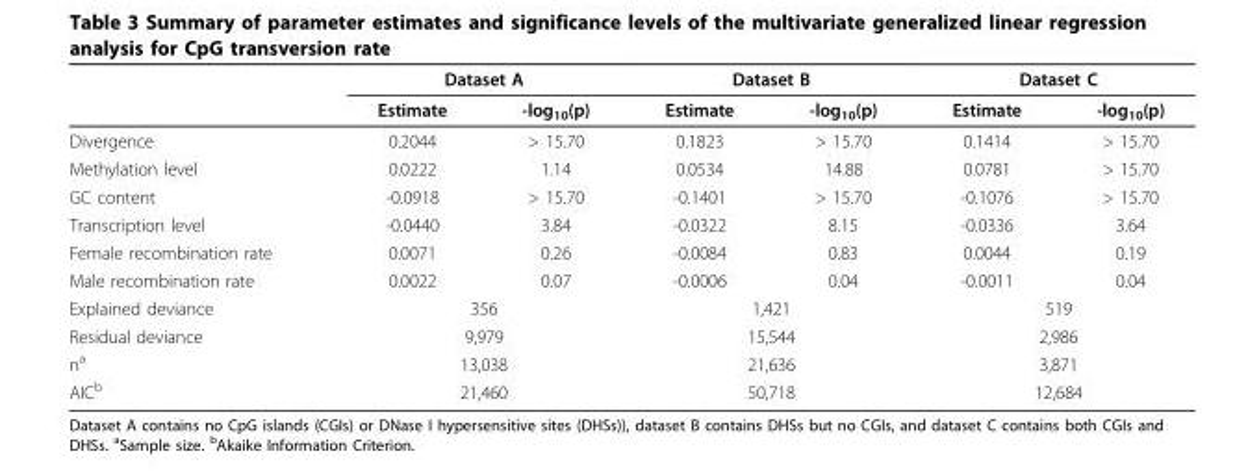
<table><thead><tr><td rowspan="2"></td><td colspan="2">Dataset A</td><td colspan="2">Dataset B</td><td colspan="2">Dataset C</td></tr><tr><td>Estimate</td><td>-log<sub>10</sub>(p)</td><td>Estimate</td><td>-log<sub>10</sub>(p)</td><td>Estimate</td><td>-log<sub>10</sub>(p)</td></tr></thead><tbody><tr><td>Divergence</td><td>0.2044</td><td>&gt; 15.70</td><td>0.1823</td><td>&gt; 15.70</td><td>0.1414</td><td>&gt; 15.70</td></tr><tr><td>Methylation level</td><td>0.0222</td><td>1.14</td><td>0.0534</td><td>14.88</td><td>0.0781</td><td>&gt; 15.70</td></tr><tr><td>GC content</td><td>-0.0918</td><td>&gt; 15.70</td><td>-0.1401</td><td>&gt; 15.70</td><td>-0.1076</td><td>&gt; 15.70</td></tr><tr><td>Transcription level</td><td>-0.0440</td><td>3.84</td><td>-0.0322</td><td>8.15</td><td>-0.0336</td><td>3.64</td></tr><tr><td>Female recombination rate</td><td>0.0071</td><td>0.26</td><td>-0.0084</td><td>0.83</td><td>0.0044</td><td>0.19</td></tr><tr><td>Male recombination rate</td><td>0.0022</td><td>0.07</td><td>-0.0006</td><td>0.04</td><td>-0.0011</td><td>0.04</td></tr><tr><td>Explained deviance</td><td colspan="2">356</td><td colspan="2">1,421</td><td colspan="2">519</td></tr><tr><td>Residual deviance</td><td colspan="2">9,979</td><td colspan="2">15,544</td><td colspan="2">2,986</td></tr><tr><td>n<sup>a</sup></td><td colspan="2">13,038</td><td colspan="2">21,636</td><td colspan="2">3,871</td></tr><tr><td>AIC<sup>b</sup></td><td colspan="2">21,460</td><td colspan="2">50,718</td><td colspan="2">12,684</td></tr></tbody></table>